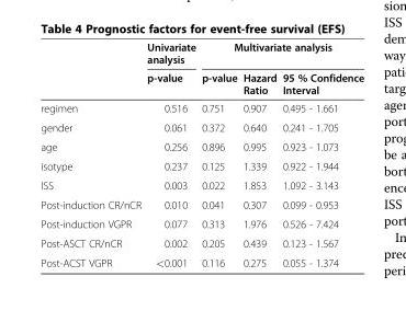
<table><thead><tr><td rowspan="2"></td><td rowspan="2">Univariate analysis p-value</td><td colspan="3">Multivariate analysis</td></tr><tr><td>p-value</td><td>Hazard Ratio</td><td>95 % Confidence Interval</td></tr></thead><tbody><tr><td>regimen</td><td>0.516</td><td>0.751</td><td>0.907</td><td>0.495 - 1.661</td></tr><tr><td>gender</td><td>0.061</td><td>0.372</td><td>0.640</td><td>0.241 - 1.705</td></tr><tr><td>age</td><td>0.256</td><td>0.896</td><td>0.995</td><td>0.923 - 1.073</td></tr><tr><td>isotype</td><td>0.237</td><td>0.125</td><td>1.339</td><td>0.922 - 1.944</td></tr><tr><td>ISS</td><td>0.003</td><td>0.022</td><td>1.853</td><td>1.092 - 3.143</td></tr><tr><td>Post-induction CR/nCR</td><td>0.010</td><td>0.041</td><td>0.307</td><td>0.099 - 0.953</td></tr><tr><td>Post-induction VGPR</td><td>0.077</td><td>0.313</td><td>1.976</td><td>0.526 - 7.424</td></tr><tr><td>Post-ASCT CR/nCR</td><td>0.002</td><td>0.205</td><td>0.439</td><td>0.123 - 1.567</td></tr><tr><td>Post-ACST VGPR</td><td>&lt;0.001</td><td>0.116</td><td>0.275</td><td>0.055 - 1.374</td></tr></tbody></table>